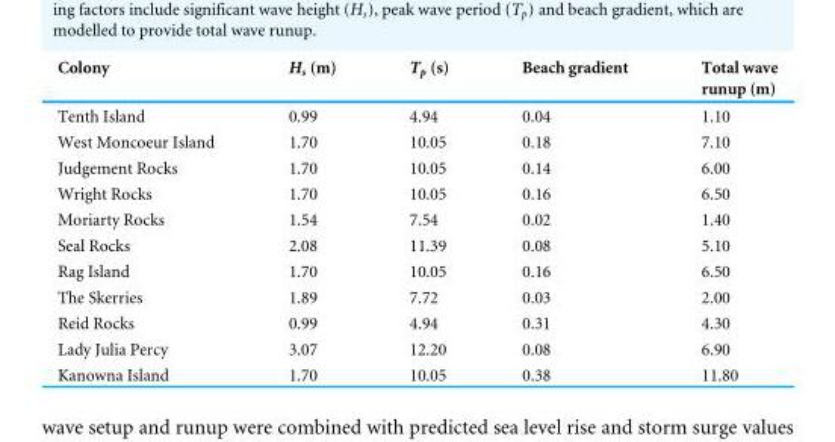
<table><thead><tr><td>Colony</td><td>H<sub>s</sub> (m)</td><td>T<sub>p</sub> (s)</td><td>Beach gradient</td><td>Total wave runup (m)</td></tr></thead><tbody><tr><td>Tenth Island</td><td>0.99</td><td>4.94</td><td>0.04</td><td>1.10</td></tr><tr><td>West Moncoeur Island</td><td>1.70</td><td>10.05</td><td>0.18</td><td>7.10</td></tr><tr><td>Judgement Rocks</td><td>1.70</td><td>10.05</td><td>0.14</td><td>6.00</td></tr><tr><td>Wright Rocks</td><td>1.70</td><td>10.05</td><td>0.16</td><td>6.50</td></tr><tr><td>Moriarty Rocks</td><td>1.54</td><td>7.54</td><td>0.02</td><td>1.40</td></tr><tr><td>Seal Rocks</td><td>2.08</td><td>11.39</td><td>0.08</td><td>5.10</td></tr><tr><td>Rag Island</td><td>1.70</td><td>10.05</td><td>0.16</td><td>6.50</td></tr><tr><td>The Skerries</td><td>1.89</td><td>7.72</td><td>0.03</td><td>2.00</td></tr><tr><td>Reid Rocks</td><td>0.99</td><td>4.94</td><td>0.31</td><td>4.30</td></tr><tr><td>Lady Julia Percy</td><td>3.07</td><td>12.20</td><td>0.08</td><td>6.90</td></tr><tr><td>Kanowna Island</td><td>1.70</td><td>10.05</td><td>0.38</td><td>11.80</td></tr></tbody></table>